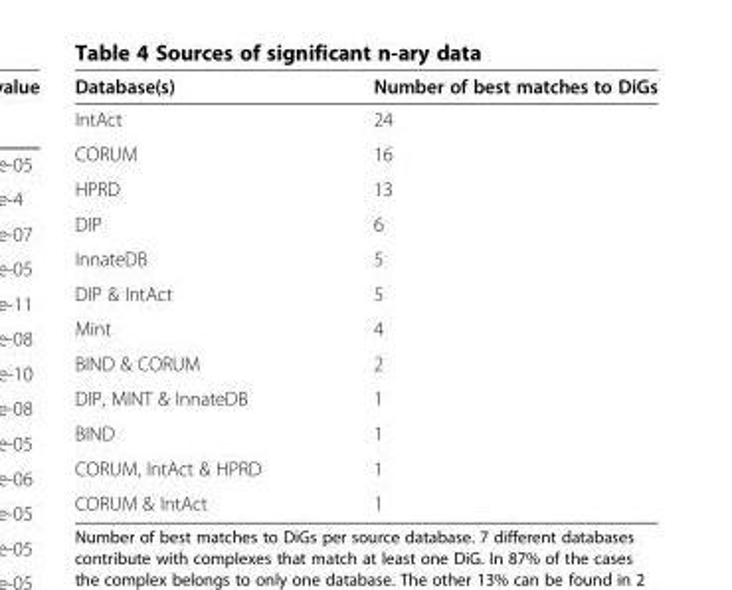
<table><thead><tr><td>Database(s)</td><td>Number of best matches to DiGs</td></tr></thead><tbody><tr><td>IntAct</td><td>24</td></tr><tr><td>CORUM</td><td>16</td></tr><tr><td>HPRD</td><td>13</td></tr><tr><td>DIP</td><td>6</td></tr><tr><td>InnateDB</td><td>5</td></tr><tr><td>DIP &amp; IntAct</td><td>5</td></tr><tr><td>Mint</td><td>4</td></tr><tr><td>BIND &amp; CORUM</td><td>2</td></tr><tr><td>DIP, MINT &amp; InnateDB</td><td>1</td></tr><tr><td>BIND</td><td>1</td></tr><tr><td>CORUM, IntAct &amp; HPRD</td><td>1</td></tr><tr><td>CORUM &amp; IntAct</td><td>1</td></tr></tbody></table>